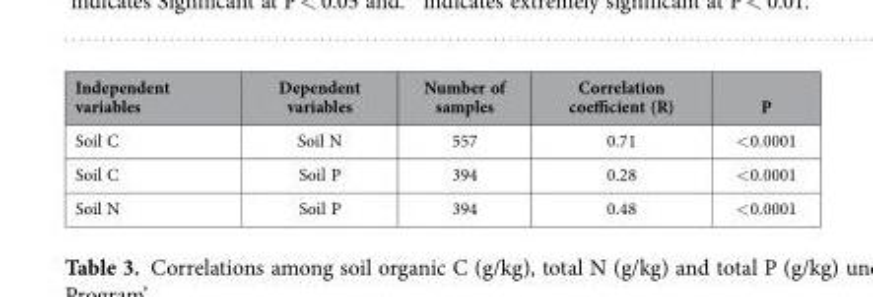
<table><thead><tr><td>Independent variables</td><td>Dependent variables</td><td>Number of samples</td><td>Correlation coefficient (R)</td><td>P</td></tr></thead><tbody><tr><td>Soil C</td><td>Soil N</td><td>557</td><td>0.71</td><td>&lt; 0.0001</td></tr><tr><td>Soil C</td><td>Soil P</td><td>394</td><td>0.28</td><td>&lt; 0.0001</td></tr><tr><td>Soil N</td><td>Soil P</td><td>394</td><td>0.48</td><td>&lt; 0.0001</td></tr></tbody></table>